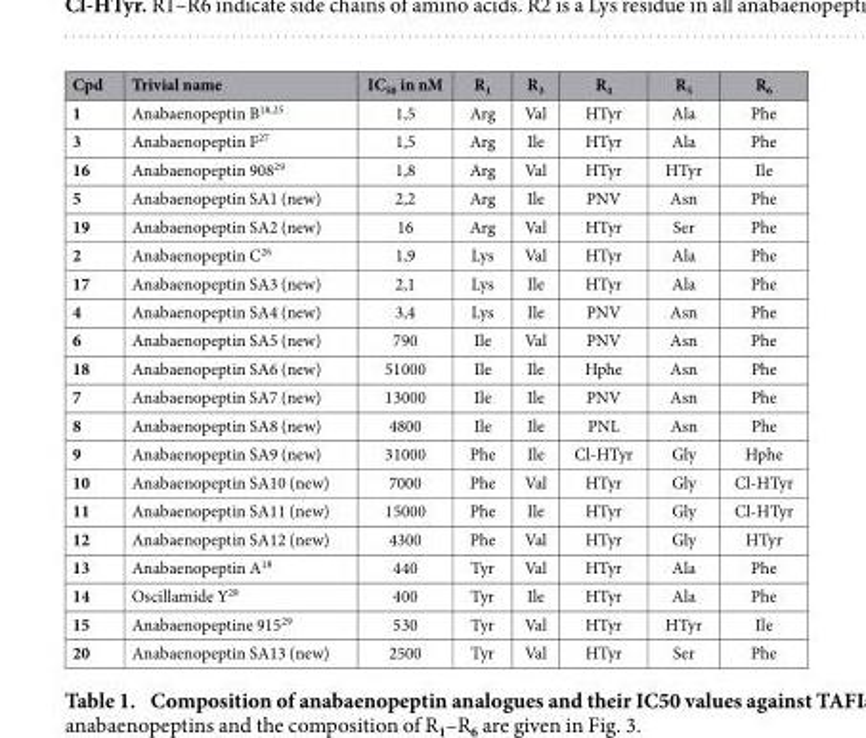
<table><thead><tr><td>Cpd</td><td>Trivial name</td><td>IC<sub>50</sub> in nM</td><td>R<sub>1</sub></td><td>R<sub>3</sub></td><td>R<sub>4</sub></td><td>R<sub>5</sub></td><td>R<sub>6</sub></td></tr></thead><tbody><tr><td>1</td><td>Anabaenopeptin B<sup>18</sup>,<sup>25</sup></td><td>1,5</td><td>Arg</td><td>Val</td><td>HTyr</td><td>Ala</td><td>Phe</td></tr><tr><td>3</td><td>Anabaenopeptin F<sup>27</sup></td><td>1,5</td><td>Arg</td><td>Ile</td><td>HTyr</td><td>Ala</td><td>Phe</td></tr><tr><td>16</td><td>Anabaenopeptin 908<sup>29</sup></td><td>1,8</td><td>Arg</td><td>Val</td><td>HTyr</td><td>HTyr</td><td>Ile</td></tr><tr><td>5</td><td>Anabaenopeptin SA1 (new)</td><td>2,2</td><td>Arg</td><td>Ile</td><td>PNV</td><td>Asn</td><td>Phe</td></tr><tr><td>19</td><td>Anabaenopeptin SA2 (new)</td><td>16</td><td>Arg</td><td>Val</td><td>HTyr</td><td>Ser</td><td>Phe</td></tr><tr><td>2</td><td>Anabaenopeptin C<sup>26</sup></td><td>1,9</td><td>Lys</td><td>Val</td><td>HTyr</td><td>Ala</td><td>Phe</td></tr><tr><td>17</td><td>Anabaenopeptin SA3 (new)</td><td>2,1</td><td>Lys</td><td>Ile</td><td>HTyr</td><td>Ala</td><td>Phe</td></tr><tr><td>4</td><td>Anabaenopeptin SA4 (new)</td><td>3,4</td><td>Lys</td><td>Ile</td><td>PNV</td><td>Asn</td><td>Phe</td></tr><tr><td>6</td><td>Anabaenopeptin SA5 (new)</td><td>790</td><td>Ile</td><td>Val</td><td>PNV</td><td>Asn</td><td>Phe</td></tr><tr><td>18</td><td>Anabaenopeptin SA6 (new)</td><td>51000</td><td>Ile</td><td>Ile</td><td>Hphe</td><td>Asn</td><td>Phe</td></tr><tr><td>7</td><td>Anabaenopeptin SA7 (new)</td><td>13000</td><td>Ile</td><td>Ile</td><td>PNV</td><td>Asn</td><td>Phe</td></tr><tr><td>8</td><td>Anabaenopeptin SA8 (new)</td><td>4800</td><td>Ile</td><td>Ile</td><td>PNL</td><td>Asn</td><td>Phe</td></tr><tr><td>9</td><td>Anabaenopeptin SA9 (new)</td><td>31000</td><td>Phe</td><td>Ile</td><td>Cl-HTyr</td><td>Gly</td><td>Hphe</td></tr><tr><td>10</td><td>Anabaenopeptin SA10 (new)</td><td>7000</td><td>Phe</td><td>Val</td><td>HTyr</td><td>Gly</td><td>Cl-HTyr</td></tr><tr><td>11</td><td>Anabaenopeptin SA11 (new)</td><td>15000</td><td>Phe</td><td>Ile</td><td>HTyr</td><td>Gly</td><td>Cl-HTyr</td></tr><tr><td>12</td><td>Anabaenopeptin SA12 (new)</td><td>4300</td><td>Phe</td><td>Val</td><td>HTyr</td><td>Gly</td><td>HTyr</td></tr><tr><td>13</td><td>Anabaenopeptin A<sup>18</sup></td><td>440</td><td>Tyr</td><td>Val</td><td>HTyr</td><td>Ala</td><td>Phe</td></tr><tr><td>14</td><td>Oscillamide Y<sup>28</sup></td><td>400</td><td>Tyr</td><td>Ile</td><td>HTyr</td><td>Ala</td><td>Phe</td></tr><tr><td>15</td><td>Anabaenopeptine 915<sup>29</sup></td><td>530</td><td>Tyr</td><td>Val</td><td>HTyr</td><td>HTyr</td><td>Ile</td></tr><tr><td>20</td><td>Anabaenopeptin SA13 (new)</td><td>2500</td><td>Tyr</td><td>Val</td><td>HTyr</td><td>Ser</td><td>Phe</td></tr></tbody></table>